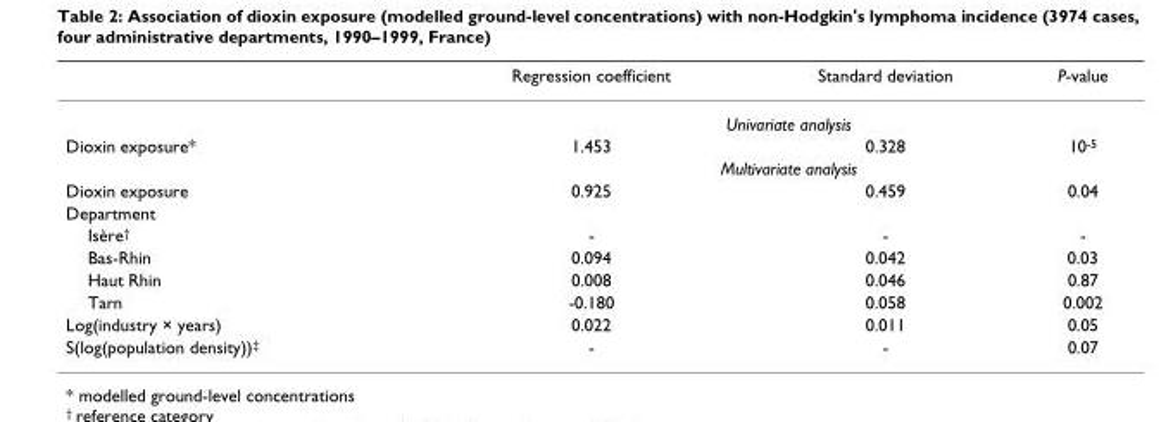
<table><thead><tr><td></td><td>Regression coefficient</td><td>Standard deviation</td><td>P-value</td></tr></thead><tbody><tr><td></td><td colspan="3">Univariate analysis</td></tr><tr><td rowspan="2">Dioxin exposure*</td><td>1.453</td><td>0.328</td><td>10<sup>-5</sup></td></tr><tr><td colspan="3">Multivariate analysis</td></tr><tr><td>Dioxin exposure</td><td>0.925</td><td>0.459</td><td>0.04</td></tr><tr><td colspan="4">Department</td></tr><tr><td>Isère<sup>†</sup></td><td>-</td><td>-</td><td>-</td></tr><tr><td>Bas-Rhin</td><td>0.094</td><td>0.042</td><td>0.03</td></tr><tr><td>Haut Rhin</td><td>0.008</td><td>0.046</td><td>0.87</td></tr><tr><td>Tarn</td><td>-0.180</td><td>0.058</td><td>0.002</td></tr><tr><td>Log(industry × years)</td><td>0.022</td><td>0.011</td><td>0.05</td></tr><tr><td>S(log(population density))<sup>‡</sup></td><td>-</td><td>-</td><td>0.07</td></tr></tbody></table>